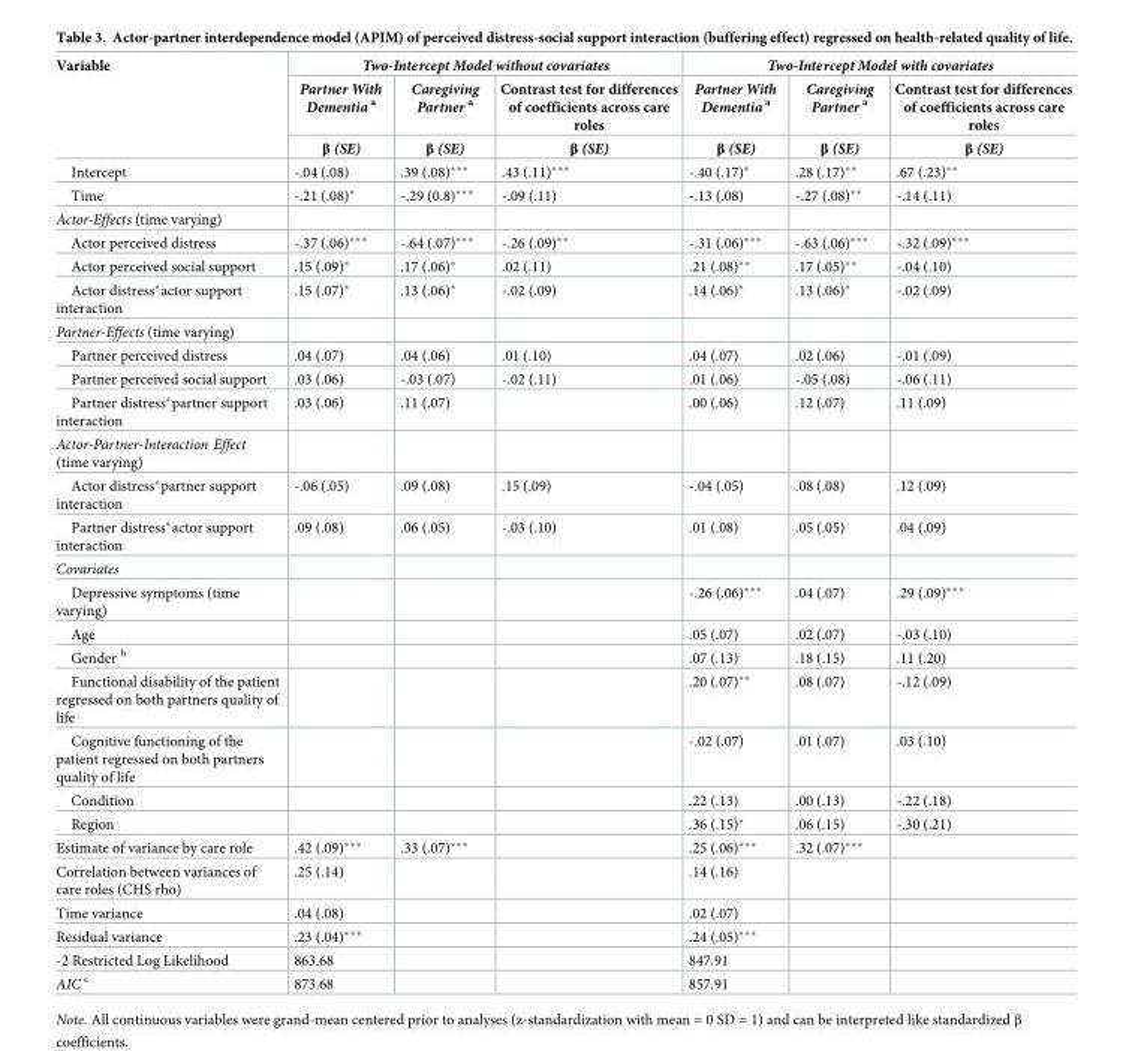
<table><thead><tr><td rowspan="3">Variable</td><td colspan="3">Two-Intercept Model without covariates</td><td colspan="3">Two-Intercept Model with covariates</td></tr><tr><td rowspan="2">Partner With Dementia <sup>a</sup> β (SE)</td><td rowspan="2">Caregiving Partner <sup>a</sup> β (SE)</td><td rowspan="2">Contrast test for differences of coefficients across care roles β (SE)</td><td rowspan="2">Partner With Dementia <sup>a</sup> β (SE)</td><td rowspan="2">Caregiving Partner <sup>a</sup> β (SE)</td><td rowspan="2">Contrast test for differences of coefficients across care roles β (SE)</td></tr><tr></tr></thead><tbody><tr><td>Intercept</td><td>-.04 (.08)</td><td>.39 (.08)***</td><td>.43 (.11)***</td><td>-.40 (.17)*</td><td>.28 (.17)**</td><td>.67 (.23)**</td></tr><tr><td>Time</td><td>-.21 (.08)*</td><td>-.29 (0.8)***</td><td>-.09 (.11)</td><td>-.13 (.08)</td><td>-.27 (.08)**</td><td>-.14 (.11)</td></tr><tr><td colspan="7">Actor-Effects (time varying)</td></tr><tr><td>Actor perceived distress</td><td>-.37 (.06)***</td><td>-.64 (.07)***</td><td>-.26 (.09)**</td><td>-.31 (.06)***</td><td>-.63 (.06)***</td><td>-.32 (.09)***</td></tr><tr><td>Actor perceived social support</td><td>.15 (.09)*</td><td>.17 (.06)*</td><td>.02 (.11)</td><td>.21 (.08)**</td><td>.17 (.05)**</td><td>-.04 (.10)</td></tr><tr><td>Actor distress*actor support interaction</td><td>.15 (.07)*</td><td>.13 (.06)*</td><td>-.02 (.09)</td><td>.14 (.06)*</td><td>.13 (.06)*</td><td>-.02 (.09)</td></tr><tr><td colspan="7">Partner-Effects (time varying)</td></tr><tr><td>Partner perceived distress</td><td>.04 (.07)</td><td>.04 (.06)</td><td>.01 (.10)</td><td>.04 (.07)</td><td>.02 (.06)</td><td>-.01 (.09)</td></tr><tr><td>Partner perceived social support</td><td>.03 (.06)</td><td>-.03 (.07)</td><td>-.02 (.11)</td><td>.01 (.06)</td><td>-.05 (.08)</td><td>-.06 (.11)</td></tr><tr><td>Partner distress*partner support interaction</td><td>.03 (.06)</td><td>.11 (.07)</td><td></td><td>.00 (.06)</td><td>.12 (.07)</td><td>.11 (.09)</td></tr><tr><td colspan="7">Actor-Partner-Interaction Effect (time varying)</td></tr><tr><td>Actor distress*partner support interaction</td><td>-.06 (.05)</td><td>.09 (.08)</td><td>.15 (.09)</td><td>-.04 (.05)</td><td>.08 (.08)</td><td>.12 (.09)</td></tr><tr><td>Partner distress*actor support interaction</td><td>.09 (.08)</td><td>.06 (.05)</td><td>-.03 (.10)</td><td>.01 (.08)</td><td>.05 (.05)</td><td>.04 (.09)</td></tr><tr><td colspan="7">Covariates</td></tr><tr><td>Depressive symptoms (time varying)</td><td></td><td></td><td></td><td>-.26 (.06)***</td><td>.04 (.07)</td><td>.29 (.09)***</td></tr><tr><td>Age</td><td></td><td></td><td></td><td>.05 (.07)</td><td>.02 (.07)</td><td>-.03 (.10)</td></tr><tr><td>Gender <sup>b</sup></td><td></td><td></td><td></td><td>.07 (.13)</td><td>.18 (.15)</td><td>.11 (.20)</td></tr><tr><td>Functional disability of the patient regressed on both partners quality of life</td><td></td><td></td><td></td><td>.20 (.07)**</td><td>.08 (.07)</td><td>-.12 (.09)</td></tr><tr><td>Cognitive functioning of the patient regressed on both partners quality of life</td><td></td><td></td><td></td><td>-.02 (.07)</td><td>.01 (.07)</td><td>.03 (.10)</td></tr><tr><td>Condition</td><td></td><td></td><td></td><td>.22 (.13)</td><td>.00 (.13)</td><td>-.22 (.18)</td></tr><tr><td>Region</td><td></td><td></td><td></td><td>.36 (.15)*</td><td>.06 (.15)</td><td>-.30 (.21)</td></tr><tr><td>Estimate of variance by care role</td><td>.42 (.09)***</td><td>.33 (.07)***</td><td></td><td>.25 (.06)***</td><td>.32 (.07)***</td><td></td></tr><tr><td>Correlation between variances of care roles (CHS rho)</td><td>.25 (.14)</td><td></td><td></td><td>.14 (.16)</td><td></td><td></td></tr><tr><td>Time variance</td><td>.04 (.08)</td><td></td><td></td><td>.02 (.07)</td><td></td><td></td></tr><tr><td>Residual variance</td><td>.23 (.04)***</td><td></td><td></td><td>.24 (.05)***</td><td></td><td></td></tr><tr><td>-2 Restricted Log Likelihood</td><td>863.68</td><td></td><td></td><td>847.91</td><td></td><td></td></tr><tr><td>AIC <sup>c</sup></td><td>873.68</td><td></td><td></td><td>857.91</td><td></td><td></td></tr></tbody></table>